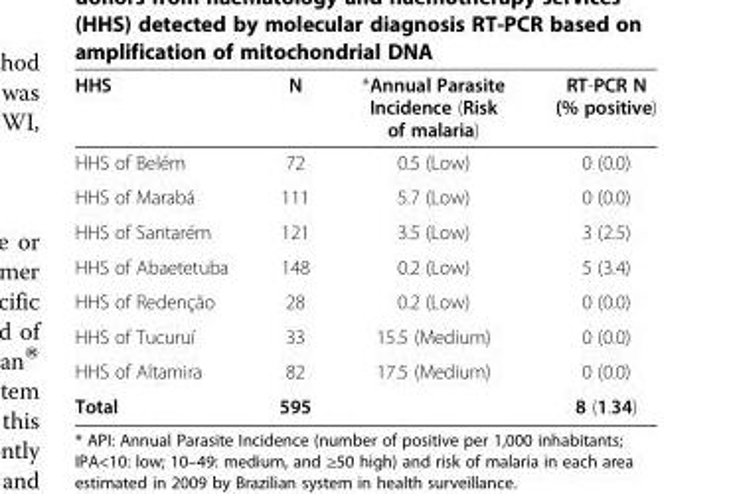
<table><thead><tr><td>HHS</td><td>N</td><td>*Annual Parasite Incidence (Risk of malaria)</td><td>RT-PCR N (% positive)</td></tr></thead><tbody><tr><td>HHS of Belém</td><td>72</td><td>0.5 (Low)</td><td>0 (0.0)</td></tr><tr><td>HHS of Marabá</td><td>111</td><td>5.7 (Low)</td><td>0 (0.0)</td></tr><tr><td>HHS of Santarém</td><td>121</td><td>3.5 (Low)</td><td>3 (2.5)</td></tr><tr><td>HHS of Abaetetuba</td><td>148</td><td>0.2 (Low)</td><td>5 (3.4)</td></tr><tr><td>HHS of Redenção</td><td>28</td><td>0.2 (Low)</td><td>0 (0.0)</td></tr><tr><td>HHS of Tucuruí</td><td>33</td><td>15.5 (Medium)</td><td>0 (0.0)</td></tr><tr><td>HHS of Altamira</td><td>82</td><td>17.5 (Medium)</td><td>0 (0.0)</td></tr><tr><td>Total</td><td>595</td><td></td><td>8 (1.34)</td></tr></tbody></table>